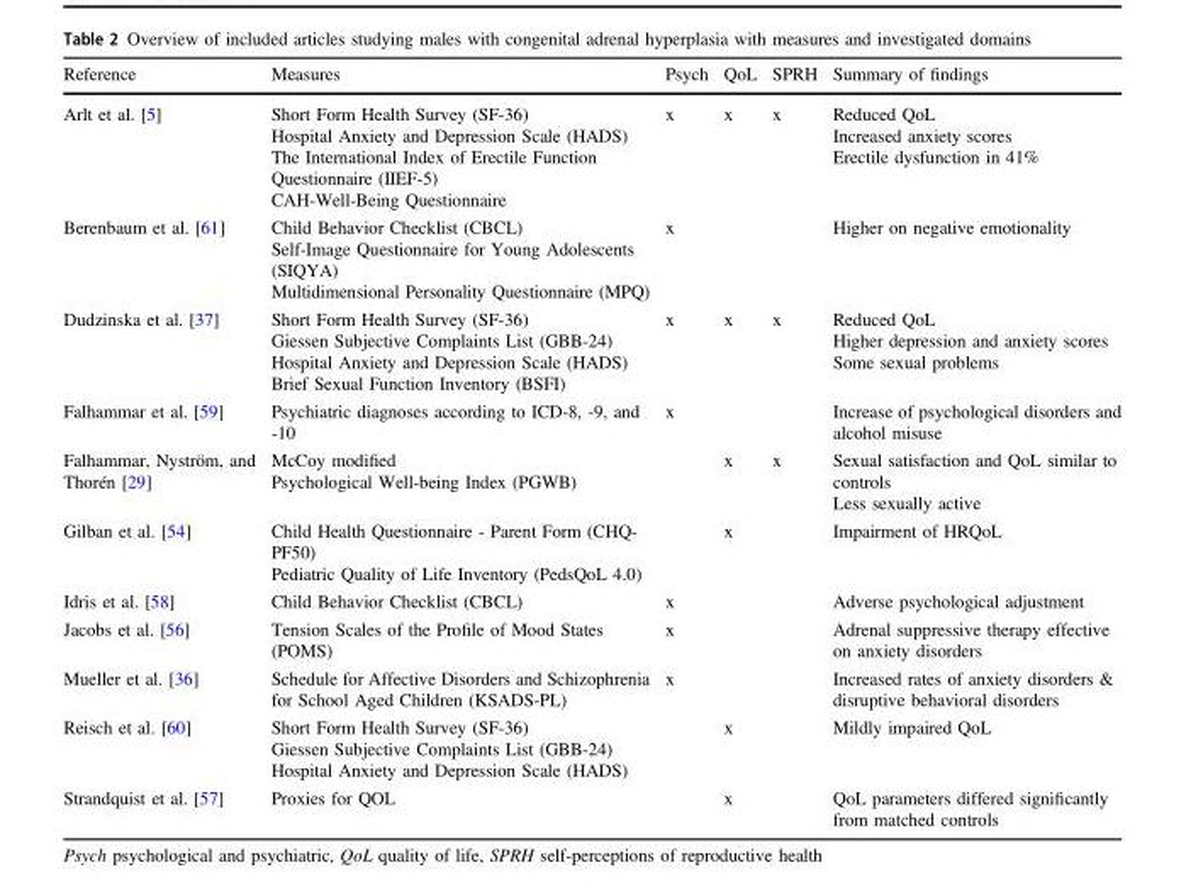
<table><thead><tr><td>Reference</td><td>Measures</td><td>Psych</td><td>QoL</td><td>SPRH</td><td>Summary of findings</td></tr></thead><tbody><tr><td>Arlt et al. [5]</td><td>Short Form Health Survey (SF-36) Hospital Anxiety and Depression Scale (HADS) The International Index of Erectile Function Questionnaire (IIEF-5) CAH-Well-Being Questionnaire</td><td>x</td><td>x</td><td>x</td><td>Reduced QoL Increased anxiety scores Erectile dysfunction in 41%</td></tr><tr><td>Berenbaum et al. [61]</td><td>Child Behavior Checklist (CBCL) Self-Image Questionnaire for Young Adolescents (SIQYA) Multidimensional Personality Questionnaire (MPQ)</td><td>x</td><td></td><td></td><td>Higher on negative emotionality</td></tr><tr><td>Dudzinska et al. [37]</td><td>Short Form Health Survey (SF-36) Giessen Subjective Complaints List (GBB-24) Hospital Anxiety and Depression Scale (HADS) Brief Sexual Function Inventory (BSFI)</td><td>x</td><td>x</td><td>x</td><td>Reduced QoL Higher depression and anxiety scores Some sexual problems</td></tr><tr><td>Falhammar et al. [59]</td><td>Psychiatric diagnoses according to ICD-8, -9, and -10</td><td>x</td><td></td><td></td><td>Increase of psychological disorders and alcohol misuse</td></tr><tr><td>Falhammar, Nyström, and Thorén [29]</td><td>McCoy modified Psychological Well-being Index (PGWB)</td><td></td><td>x</td><td>x</td><td>Sexual satisfaction and QoL similar to controls Less sexually active</td></tr><tr><td>Gilban et al. [54]</td><td>Child Health Questionnaire - Parent Form (CHQ- PF50) Pediatric Quality of Life Inventory (PedsQoL 4.0)</td><td></td><td>x</td><td></td><td>Impairment of HRQoL</td></tr><tr><td>Idris et al. [58]</td><td>Child Behavior Checklist (CBCL)</td><td>x</td><td></td><td></td><td>Adverse psychological adjustment</td></tr><tr><td>Jacobs et al. [56]</td><td>Tension Scales of the Profile of Mood States (POMS)</td><td>x</td><td></td><td></td><td>Adrenal suppressive therapy effective on anxiety disorders</td></tr><tr><td>Mueller et al. [36]</td><td>Schedule for Affective Disorders and Schizophrenia for School Aged Children (KSADS-PL)</td><td>x</td><td></td><td></td><td>Increased rates of anxiety disorders &amp; disruptive behavioral disorders</td></tr><tr><td>Reisch et al. [60]</td><td>Short Form Health Survey (SF-36) Giessen Subjective Complaints List (GBB-24) Hospital Anxiety and Depression Scale (HADS)</td><td></td><td>x</td><td></td><td>Mildly impaired QoL</td></tr><tr><td>Strandquist et al. [57]</td><td>Proxies for QOL</td><td></td><td>x</td><td></td><td>QoL parameters differed significantly from matched controls</td></tr></tbody></table>